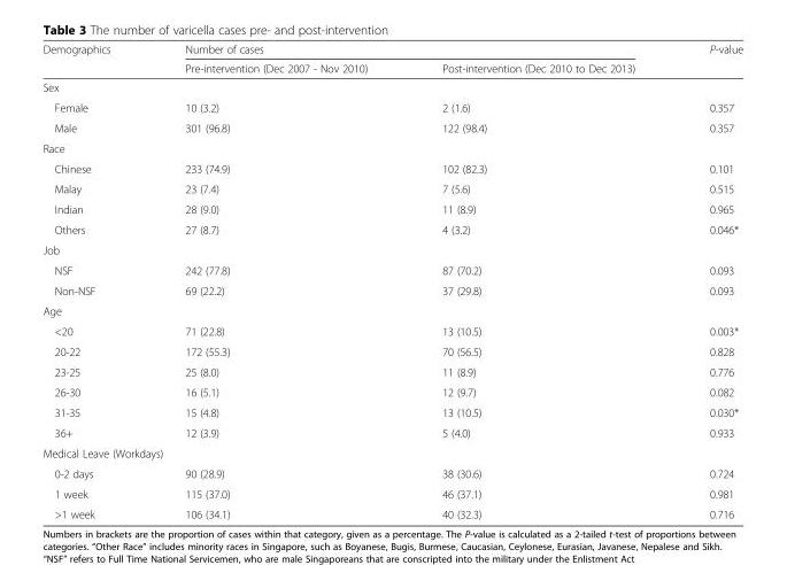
<table><thead><tr><td rowspan="2">Demographics</td><td colspan="2">Number of cases</td><td rowspan="2">P-value</td></tr><tr><td>Pre-intervention (Dec 2007 - Nov 2010)</td><td>Post-intervention (Dec 2010 to Dec 2013)</td></tr></thead><tbody><tr><td colspan="4">Sex</td></tr><tr><td>Female</td><td>10 (3.2)</td><td>2 (1.6)</td><td>0.357</td></tr><tr><td>Male</td><td>301 (96.8)</td><td>122 (98.4)</td><td>0.357</td></tr><tr><td colspan="4">Race</td></tr><tr><td>Chinese</td><td>233 (74.9)</td><td>102 (82.3)</td><td>0.101</td></tr><tr><td>Malay</td><td>23 (7.4)</td><td>7 (5.6)</td><td>0.515</td></tr><tr><td>Indian</td><td>28 (9.0)</td><td>11 (8.9)</td><td>0.965</td></tr><tr><td>Others</td><td>27 (8.7)</td><td>4 (3.2)</td><td>0.046*</td></tr><tr><td colspan="4">Job</td></tr><tr><td>NSF</td><td>242 (77.8)</td><td>87 (70.2)</td><td>0.093</td></tr><tr><td>Non-NSF</td><td>69 (22.2)</td><td>37 (29.8)</td><td>0.093</td></tr><tr><td colspan="4">Age</td></tr><tr><td>&lt;20</td><td>71 (22.8)</td><td>13 (10.5)</td><td>0.003*</td></tr><tr><td>20-22</td><td>172 (55.3)</td><td>70 (56.5)</td><td>0.828</td></tr><tr><td>23-25</td><td>25 (8.0)</td><td>11 (8.9)</td><td>0.776</td></tr><tr><td>26-30</td><td>16 (5.1)</td><td>12 (9.7)</td><td>0.082</td></tr><tr><td>31-35</td><td>15 (4.8)</td><td>13 (10.5)</td><td>0.030*</td></tr><tr><td>36+</td><td>12 (3.9)</td><td>5 (4.0)</td><td>0.933</td></tr><tr><td colspan="4">Medical Leave (Workdays)</td></tr><tr><td>0-2 days</td><td>90 (28.9)</td><td>38 (30.6)</td><td>0.724</td></tr><tr><td>1 week</td><td>115 (37.0)</td><td>46 (37.1)</td><td>0.981</td></tr><tr><td>&gt;1 week</td><td>106 (34.1)</td><td>40 (32.3)</td><td>0.716</td></tr></tbody></table>